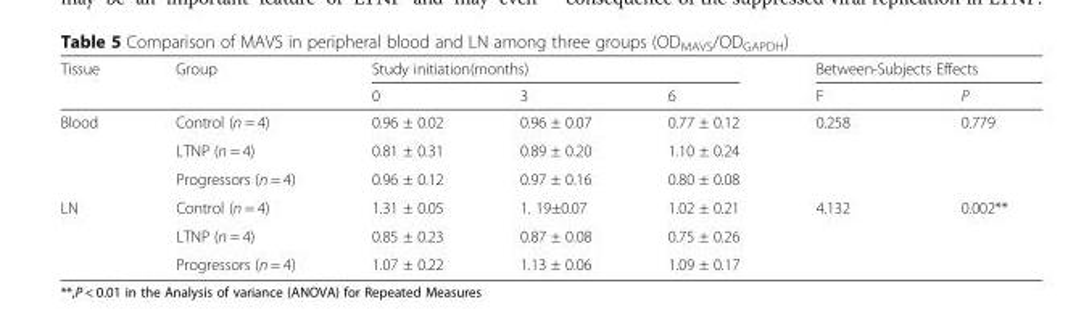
<table><thead><tr><td rowspan="2">Tissue</td><td rowspan="2">Group</td><td colspan="3">Study initiation(months)</td><td colspan="2">Between-Subjects Effects</td></tr><tr><td>0</td><td>3</td><td>6</td><td>F</td><td>P</td></tr></thead><tbody><tr><td rowspan="3">Blood</td><td>Control (n = 4)</td><td>0.96 ± 0.02</td><td>0.96 ± 0.07</td><td>0.77 ± 0.12</td><td rowspan="3">0.258</td><td rowspan="3">0.779</td></tr><tr><td>LTNP (n = 4)</td><td>0.81 ± 0.31</td><td>0.89 ± 0.20</td><td>1.10 ± 0.24</td></tr><tr><td>Progressors (n = 4)</td><td>0.96 ± 0.12</td><td>0.97 ± 0.16</td><td>0.80 ± 0.08</td></tr><tr><td rowspan="3">LN</td><td>Control (n = 4)</td><td>1.31 ± 0.05</td><td>1. 19±0.07</td><td>1.02 ± 0.21</td><td rowspan="3">4.132</td><td rowspan="3">0.002**</td></tr><tr><td>LTNP (n = 4)</td><td>0.85 ± 0.23</td><td>0.87 ± 0.08</td><td>0.75 ± 0.26</td></tr><tr><td>Progressors (n = 4)</td><td>1.07 ± 0.22</td><td>1.13 ± 0.06</td><td>1.09 ± 0.17</td></tr></tbody></table>